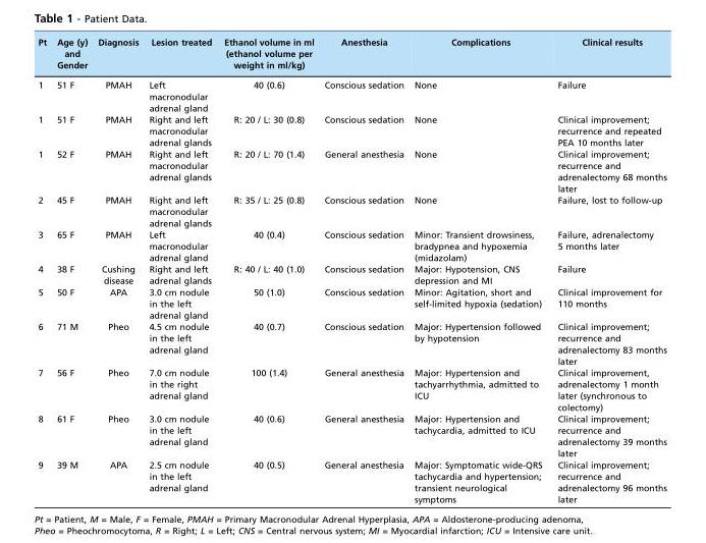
<table><thead><tr><td>Pt</td><td>Age (y) and Gender</td><td>Diagnosis</td><td>Lesion treated</td><td>Ethanol volume in ml (ethanol volume per weight in ml/kg)</td><td>Anesthesia</td><td>Complications</td><td>Clinical results</td></tr></thead><tbody><tr><td>1</td><td>51 F</td><td>PMAH</td><td>Left macronodular adrenal gland</td><td>40 (0.6)</td><td>Conscious sedation</td><td>None</td><td>Failure</td></tr><tr><td>1</td><td>51 F</td><td>PMAH</td><td>Right and left macronodular adrenal glands</td><td>R: 20 / L: 30 (0.8)</td><td>Conscious sedation</td><td>None</td><td>Clinical improvement; recurrence and repeated PEA 10 months later</td></tr><tr><td>1</td><td>52 F</td><td>PMAH</td><td>Right and left macronodular adrenal glands</td><td>R: 20 / L: 70 (1.4)</td><td>General anesthesia</td><td>None</td><td>Clinical improvement; recurrence and adrenalectomy 68 months later</td></tr><tr><td>2</td><td>45 F</td><td>PMAH</td><td>Right and left macronodular adrenal glands</td><td>R: 35 / L: 25 (0.8)</td><td>Conscious sedation</td><td>None</td><td>Failure, lost to follow-up</td></tr><tr><td>3</td><td>65 F</td><td>PMAH</td><td>Left macronodular adrenal gland</td><td>40 (0.4)</td><td>Conscious sedation</td><td>Minor: Transient drowsiness, bradypnea and hypoxemia (midazolam)</td><td>Failure, adrenalectomy 5 months later</td></tr><tr><td>4</td><td>38 F</td><td>Cushing disease</td><td>Right and left adrenal glands</td><td>R: 40 / L: 40 (1.0)</td><td>Conscious sedation</td><td>Major: Hypotension, CNS depression and MI</td><td>Failure</td></tr><tr><td>5</td><td>50 F</td><td>APA</td><td>3.0 cm nodule in the left adrenal gland</td><td>50 (1.0)</td><td>Conscious sedation</td><td>Minor: Agitation, short and self-limited hypoxia (sedation)</td><td>Clinical improvement for 110 months</td></tr><tr><td>6</td><td>71 M</td><td>Pheo</td><td>4.5 cm nodule in the left adrenal gland</td><td>40 (0.7)</td><td>Conscious sedation</td><td>Major: Hypertension followed by hypotension</td><td>Clinical improvement; recurrence and adrenalectomy 83 months later</td></tr><tr><td>7</td><td>56 F</td><td>Pheo</td><td>7.0 cm nodule in the right adrenal gland</td><td>100 (1.4)</td><td>General anesthesia</td><td>Major: Hypertension and tachyarrhythmia, admitted to ICU</td><td>Clinical improvement, adrenalectomy 1 month later (synchronous to colectomy)</td></tr><tr><td>8</td><td>61 F</td><td>Pheo</td><td>3.0 cm nodule in the left adrenal gland</td><td>40 (0.6)</td><td>General anesthesia</td><td>Major: Hypertension and tachycardia, admitted to ICU</td><td>Clinical improvement; recurrence and adrenalectomy 39 months later</td></tr><tr><td>9</td><td>39 M</td><td>APA</td><td>2.5 cm nodule in the left adrenal gland</td><td>40 (0.5)</td><td>General anesthesia</td><td>Major: Symptomatic wide-QRS tachycardia and hypertension; transient neurological symptoms</td><td>Clinical improvement; recurrence and adrenalectomy 96 months later</td></tr></tbody></table>